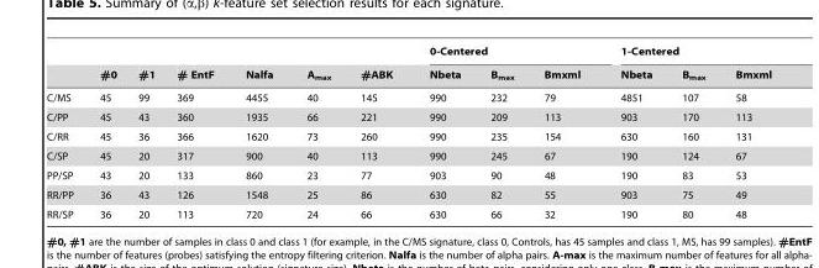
<table><thead><tr><td rowspan="2"></td><td rowspan="2">#0</td><td rowspan="2">#1</td><td rowspan="2"># EntF</td><td rowspan="2">Nalfa</td><td rowspan="2">A<sub>max</sub></td><td rowspan="2">#ABK</td><td colspan="3">0-Centered</td><td colspan="3">1-Centered</td></tr><tr><td>Nbeta</td><td>B<sub>max</sub></td><td>Bmxml</td><td>Nbeta</td><td>B<sub>max</sub></td><td>Bmxml</td></tr></thead><tbody><tr><td>C/MS</td><td>45</td><td>99</td><td>369</td><td>4455</td><td>40</td><td>145</td><td>990</td><td>232</td><td>79</td><td>4851</td><td>107</td><td>58</td></tr><tr><td>C/PP</td><td>45</td><td>43</td><td>360</td><td>1935</td><td>66</td><td>221</td><td>990</td><td>209</td><td>113</td><td>903</td><td>170</td><td>113</td></tr><tr><td>C/RR</td><td>45</td><td>36</td><td>366</td><td>1620</td><td>73</td><td>260</td><td>990</td><td>235</td><td>154</td><td>630</td><td>160</td><td>131</td></tr><tr><td>C/SP</td><td>45</td><td>20</td><td>317</td><td>900</td><td>40</td><td>113</td><td>990</td><td>245</td><td>67</td><td>190</td><td>124</td><td>67</td></tr><tr><td>PP/SP</td><td>43</td><td>20</td><td>133</td><td>860</td><td>23</td><td>77</td><td>903</td><td>90</td><td>48</td><td>190</td><td>83</td><td>53</td></tr><tr><td>RR/PP</td><td>36</td><td>43</td><td>126</td><td>1548</td><td>25</td><td>86</td><td>630</td><td>82</td><td>55</td><td>903</td><td>75</td><td>49</td></tr><tr><td>RR/SP</td><td>36</td><td>20</td><td>113</td><td>720</td><td>24</td><td>66</td><td>630</td><td>66</td><td>32</td><td>190</td><td>80</td><td>48</td></tr></tbody></table>